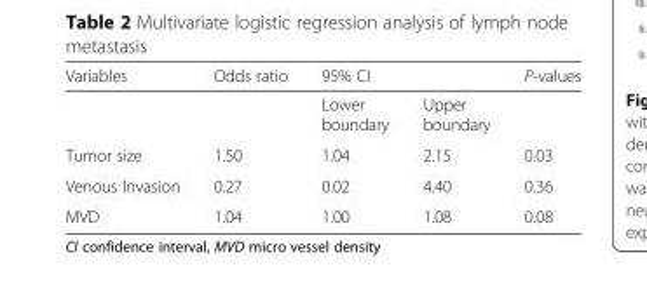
<table><thead><tr><td rowspan="2">Variables</td><td rowspan="2">Odds ratio</td><td colspan="2">95% CI</td><td rowspan="2">P-values</td></tr><tr><td>Lower boundary</td><td>Upper boundary</td></tr></thead><tbody><tr><td>Tumor size</td><td>1.50</td><td>1.04</td><td>2.15</td><td>0.03</td></tr><tr><td>Venous Invasion</td><td>0.27</td><td>0.02</td><td>4.40</td><td>0.36</td></tr><tr><td>MVD</td><td>1.04</td><td>1.00</td><td>1.08</td><td>0.08</td></tr></tbody></table>